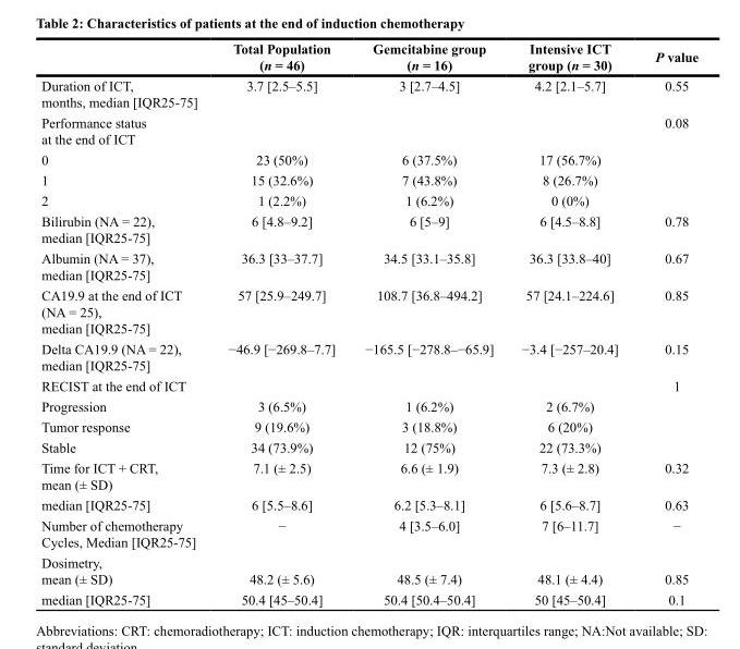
<table><thead><tr><td></td><td>Total Population (n = 46)</td><td>Gemcitabine group (n = 16)</td><td>Intensive ICT group (n = 30)</td><td>P value</td></tr></thead><tbody><tr><td>Duration of ICT, months, median [IQR25-75]</td><td>3.7 [2.5–5.5]</td><td>3 [2.7–4.5]</td><td>4.2 [2.1–5.7]</td><td>0.55</td></tr><tr><td>Performance status at the end of ICT</td><td></td><td></td><td></td><td>0.08</td></tr><tr><td>0</td><td>23 (50%)</td><td>6 (37.5%)</td><td>17 (56.7%)</td><td></td></tr><tr><td>1</td><td>15 (32.6%)</td><td>7 (43.8%)</td><td>8 (26.7%)</td><td></td></tr><tr><td>2</td><td>1 (2.2%)</td><td>1 (6.2%)</td><td>0 (0%)</td><td></td></tr><tr><td>Bilirubin (NA = 22), median [IQR25-75]</td><td>6 [4.8–9.2]</td><td>6 [5–9]</td><td>6 [4.5–8.8]</td><td>0.78</td></tr><tr><td>Albumin (NA = 37), median [IQR25-75]</td><td>36.3 [33–37.7]</td><td>34.5 [33.1–35.8]</td><td>36.3 [33.8–40]</td><td>0.67</td></tr><tr><td>CA19.9 at the end of ICT (NA = 25), median [IQR25-75]</td><td>57 [25.9–249.7]</td><td>108.7 [36.8–494.2]</td><td>57 [24.1–224.6]</td><td>0.85</td></tr><tr><td>Delta CA19.9 (NA = 22), median [IQR25-75]</td><td>−46.9 [−269.8–7.7]</td><td>−165.5 [−278.8–−65.9]</td><td>−3.4 [−257–20.4]</td><td>0.15</td></tr><tr><td>RECIST at the end of ICT</td><td></td><td></td><td></td><td>1</td></tr><tr><td>Progression</td><td>3 (6.5%)</td><td>1 (6.2%)</td><td>2 (6.7%)</td><td></td></tr><tr><td>Tumor response</td><td>9 (19.6%)</td><td>3 (18.8%)</td><td>6 (20%)</td><td></td></tr><tr><td>Stable</td><td>34 (73.9%)</td><td>12 (75%)</td><td>22 (73.3%)</td><td></td></tr><tr><td>Time for ICT + CRT, mean (± SD)</td><td>7.1 (± 2.5)</td><td>6.6 (± 1.9)</td><td>7.3 (± 2.8)</td><td>0.32</td></tr><tr><td>median [IQR25-75]</td><td>6 [5.5–8.6]</td><td>6.2 [5.3–8.1]</td><td>6 [5.6–8.7]</td><td>0.63</td></tr><tr><td>Number of chemotherapy Cycles, Median [IQR25-75]</td><td>−</td><td>4 [3.5–6.0]</td><td>7 [6–11.7]</td><td>−</td></tr><tr><td>Dosimetry, mean (± SD)</td><td>48.2 (± 5.6)</td><td>48.5 (± 7.4)</td><td>48.1 (± 4.4)</td><td>0.85</td></tr><tr><td>median [IQR25-75]</td><td>50.4 [45–50.4]</td><td>50.4 [50.4–50.4]</td><td>50 [45–50.4]</td><td>0.1</td></tr></tbody></table>